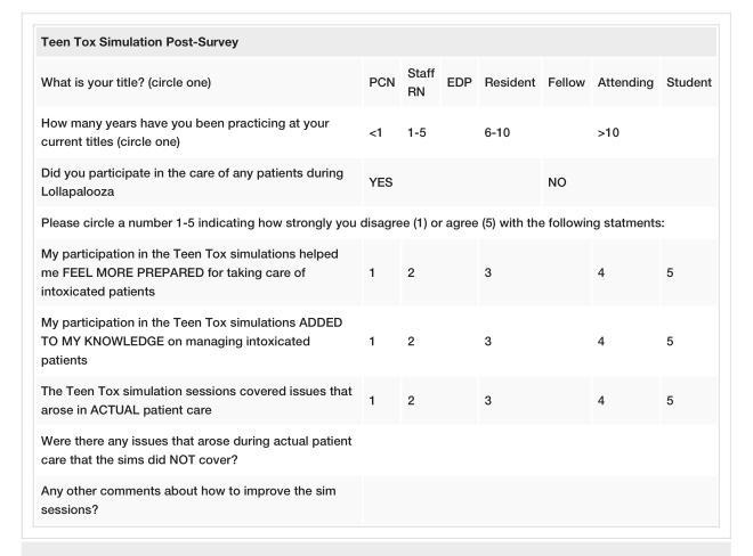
<table><tbody><tr><td colspan="8">Teen Tox Simulation Post-Survey</td></tr><tr><td>What is your title? (circle one)</td><td>PCN</td><td>Staff RN</td><td>EDP</td><td>Resident</td><td>Fellow</td><td>Attending</td><td>Student</td></tr><tr><td>How many years have you been practicing at your current titles (circle one)</td><td>&lt;1</td><td colspan="2">1-5</td><td colspan="2">6-10</td><td colspan="2">&gt;10</td></tr><tr><td>Did you participate in the care of any patients during Lollapalooza</td><td colspan="4">YES</td><td colspan="3">NO</td></tr><tr><td colspan="8">Please circle a number 1-5 indicating how strongly you disagree (1) or agree (5) with the following statments:</td></tr><tr><td>My participation in the Teen Tox simulations helped me FEEL MORE PREPARED for taking care of intoxicated patients</td><td>1</td><td colspan="2">2</td><td colspan="2">3</td><td>4</td><td>5</td></tr><tr><td>My participation in the Teen Tox simulations ADDED TO MY KNOWLEDGE on managing intoxicated patients</td><td>1</td><td colspan="2">2</td><td colspan="2">3</td><td>4</td><td>5</td></tr><tr><td>The Teen Tox simulation sessions covered issues that arose in ACTUAL patient care</td><td>1</td><td colspan="2">2</td><td colspan="2">3</td><td>4</td><td>5</td></tr><tr><td colspan="8">Were there any issues that arose during actual patient care that the sims did NOT cover?</td></tr><tr><td>Any other comments about how to improve the sim sessions?</td><td colspan="7"></td></tr></tbody></table>